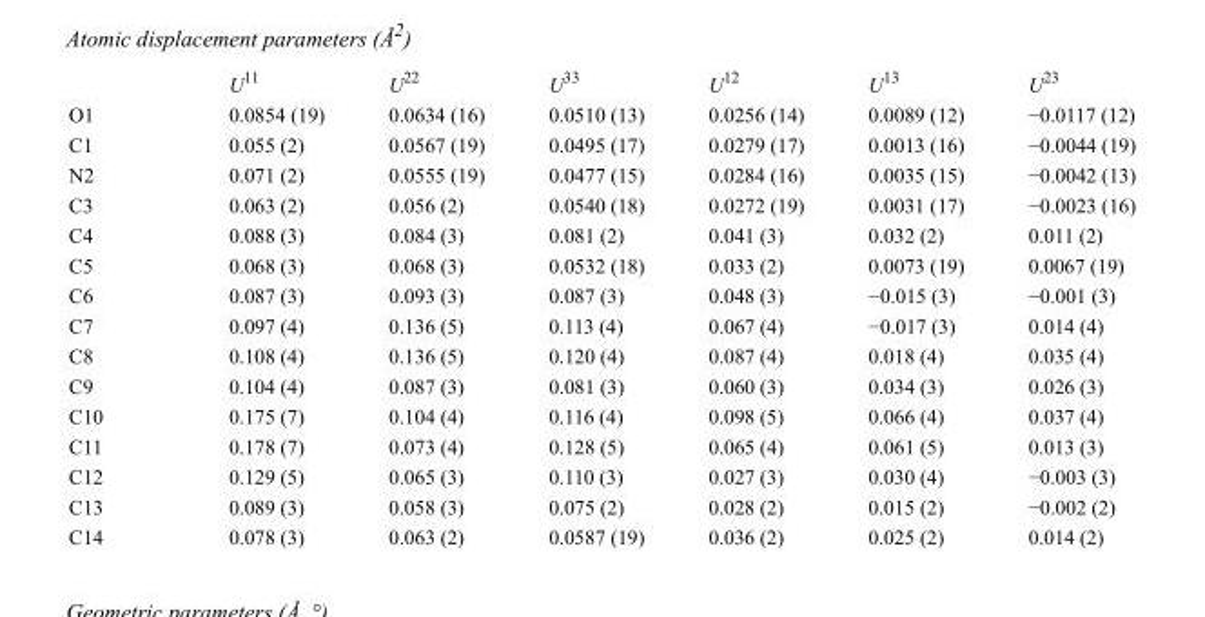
<table><thead><tr><td></td><td>U<sup>11</sup></td><td>U<sup>22</sup></td><td>U<sup>33</sup></td><td>U<sup>12</sup></td><td>U<sup>13</sup></td><td>U<sup>23</sup></td></tr></thead><tbody><tr><td>O1</td><td>0.0854 (19)</td><td>0.0634 (16)</td><td>0.0510 (13)</td><td>0.0256 (14)</td><td>0.0089 (12)</td><td>−0.0117 (12)</td></tr><tr><td>C1</td><td>0.055 (2)</td><td>0.0567 (19)</td><td>0.0495 (17)</td><td>0.0279 (17)</td><td>0.0013 (16)</td><td>−0.0044 (19)</td></tr><tr><td>N2</td><td>0.071 (2)</td><td>0.0555 (19)</td><td>0.0477 (15)</td><td>0.0284 (16)</td><td>0.0035 (15)</td><td>−0.0042 (13)</td></tr><tr><td>C3</td><td>0.063 (2)</td><td>0.056 (2)</td><td>0.0540 (18)</td><td>0.0272 (19)</td><td>0.0031 (17)</td><td>−0.0023 (16)</td></tr><tr><td>C4</td><td>0.088 (3)</td><td>0.084 (3)</td><td>0.081 (2)</td><td>0.041 (3)</td><td>0.032 (2)</td><td>0.011 (2)</td></tr><tr><td>C5</td><td>0.068 (3)</td><td>0.068 (3)</td><td>0.0532 (18)</td><td>0.033 (2)</td><td>0.0073 (19)</td><td>0.0067 (19)</td></tr><tr><td>C6</td><td>0.087 (3)</td><td>0.093 (3)</td><td>0.087 (3)</td><td>0.048 (3)</td><td>−0.015 (3)</td><td>−0.001 (3)</td></tr><tr><td>C7</td><td>0.097 (4)</td><td>0.136 (5)</td><td>0.113 (4)</td><td>0.067 (4)</td><td>−0.017 (3)</td><td>0.014 (4)</td></tr><tr><td>C8</td><td>0.108 (4)</td><td>0.136 (5)</td><td>0.120 (4)</td><td>0.087 (4)</td><td>0.018 (4)</td><td>0.035 (4)</td></tr><tr><td>C9</td><td>0.104 (4)</td><td>0.087 (3)</td><td>0.081 (3)</td><td>0.060 (3)</td><td>0.034 (3)</td><td>0.026 (3)</td></tr><tr><td>C10</td><td>0.175 (7)</td><td>0.104 (4)</td><td>0.116 (4)</td><td>0.098 (5)</td><td>0.066 (4)</td><td>0.037 (4)</td></tr><tr><td>C11</td><td>0.178 (7)</td><td>0.073 (4)</td><td>0.128 (5)</td><td>0.065 (4)</td><td>0.061 (5)</td><td>0.013 (3)</td></tr><tr><td>C12</td><td>0.129 (5)</td><td>0.065 (3)</td><td>0.110 (3)</td><td>0.027 (3)</td><td>0.030 (4)</td><td>−0.003 (3)</td></tr><tr><td>C13</td><td>0.089 (3)</td><td>0.058 (3)</td><td>0.075 (2)</td><td>0.028 (2)</td><td>0.015 (2)</td><td>−0.002 (2)</td></tr><tr><td>C14</td><td>0.078 (3)</td><td>0.063 (2)</td><td>0.0587 (19)</td><td>0.036 (2)</td><td>0.025 (2)</td><td>0.014 (2)</td></tr></tbody></table>